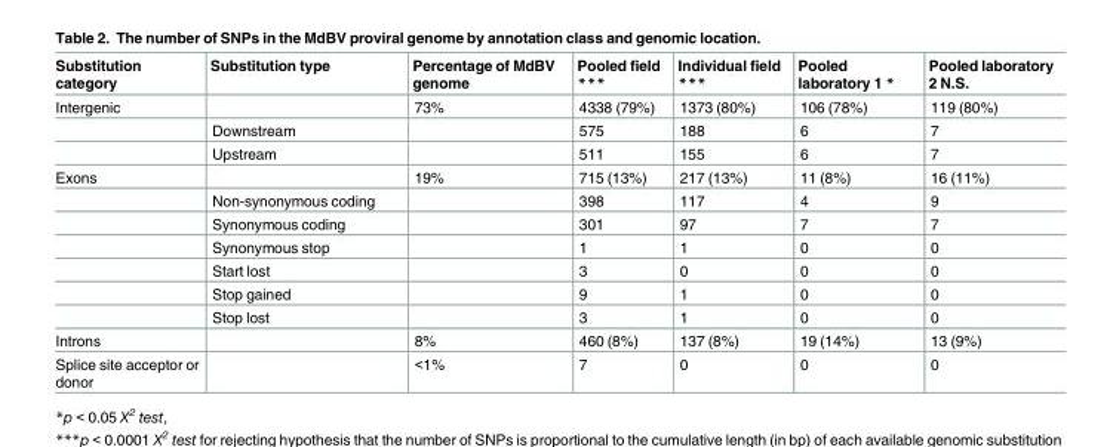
<table><thead><tr><td>Substitution category</td><td>Substitution type</td><td>Percentage of MdBV genome</td><td>Pooled field ***</td><td>Individual field ***</td><td>Pooled laboratory 1 *</td><td>Pooled laboratory 2 N.S.</td></tr></thead><tbody><tr><td rowspan="3">Intergenic</td><td></td><td>73%</td><td>4338 (79%)</td><td>1373 (80%)</td><td>106 (78%)</td><td>119 (80%)</td></tr><tr><td>Downstream</td><td></td><td>575</td><td>188</td><td>6</td><td>7</td></tr><tr><td>Upstream</td><td></td><td>511</td><td>155</td><td>6</td><td>7</td></tr><tr><td rowspan="7">Exons</td><td></td><td>19%</td><td>715 (13%)</td><td>217 (13%)</td><td>11 (8%)</td><td>16 (11%)</td></tr><tr><td>Non-synonymous coding</td><td></td><td>398</td><td>117</td><td>4</td><td>9</td></tr><tr><td>Synonymous coding</td><td></td><td>301</td><td>97</td><td>7</td><td>7</td></tr><tr><td>Synonymous stop</td><td></td><td>1</td><td>1</td><td>0</td><td>0</td></tr><tr><td>Start lost</td><td></td><td>3</td><td>0</td><td>0</td><td>0</td></tr><tr><td>Stop gained</td><td></td><td>9</td><td>1</td><td>0</td><td>0</td></tr><tr><td>Stop lost</td><td></td><td>3</td><td>1</td><td>0</td><td>0</td></tr><tr><td>Introns</td><td></td><td>8%</td><td>460 (8%)</td><td>137 (8%)</td><td>19 (14%)</td><td>13 (9%)</td></tr><tr><td>Splice site acceptor or donor</td><td></td><td>&lt;1%</td><td>7</td><td>0</td><td>0</td><td>0</td></tr></tbody></table>